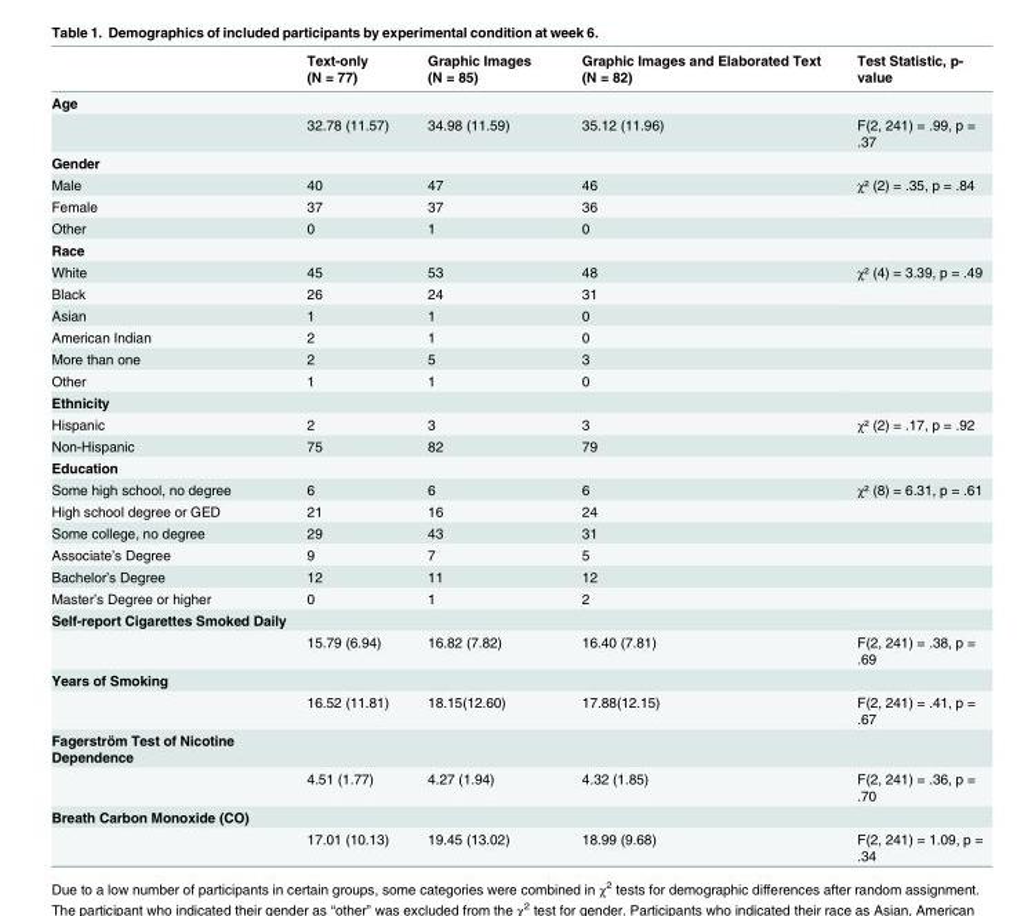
<table><thead><tr><td></td><td>Text-only (N = 77)</td><td>Graphic Images (N = 85)</td><td>Graphic Images and Elaborated Text (N = 82)</td><td>Test Statistic, p- value</td></tr></thead><tbody><tr><td colspan="5">Age</td></tr><tr><td></td><td>32.78 (11.57)</td><td>34.98 (11.59)</td><td>35.12 (11.96)</td><td>F(2, 241) = .99, p = .37</td></tr><tr><td colspan="5">Gender</td></tr><tr><td>Male</td><td>40</td><td>47</td><td>46</td><td>χ² (2) = .35, p = .84</td></tr><tr><td>Female</td><td>37</td><td>37</td><td>36</td><td></td></tr><tr><td>Other</td><td>0</td><td>1</td><td>0</td><td></td></tr><tr><td colspan="5">Race</td></tr><tr><td>White</td><td>45</td><td>53</td><td>48</td><td>χ² (4) = 3.39, p = .49</td></tr><tr><td>Black</td><td>26</td><td>24</td><td>31</td><td></td></tr><tr><td>Asian</td><td>1</td><td>1</td><td>0</td><td></td></tr><tr><td>American Indian</td><td>2</td><td>1</td><td>0</td><td></td></tr><tr><td>More than one</td><td>2</td><td>5</td><td>3</td><td></td></tr><tr><td>Other</td><td>1</td><td>1</td><td>0</td><td></td></tr><tr><td colspan="5">Ethnicity</td></tr><tr><td>Hispanic</td><td>2</td><td>3</td><td>3</td><td>χ² (2) = .17, p = .92</td></tr><tr><td>Non-Hispanic</td><td>75</td><td>82</td><td>79</td><td></td></tr><tr><td colspan="5">Education</td></tr><tr><td>Some high school, no degree</td><td>6</td><td>6</td><td>6</td><td>χ² (8) = 6.31, p = .61</td></tr><tr><td>High school degree or GED</td><td>21</td><td>16</td><td>24</td><td></td></tr><tr><td>Some college, no degree</td><td>29</td><td>43</td><td>31</td><td></td></tr><tr><td>Associate’s Degree</td><td>9</td><td>7</td><td>5</td><td></td></tr><tr><td>Bachelor’s Degree</td><td>12</td><td>11</td><td>12</td><td></td></tr><tr><td>Master’s Degree or higher</td><td>0</td><td>1</td><td>2</td><td></td></tr><tr><td colspan="5">Self-report Cigarettes Smoked Daily</td></tr><tr><td></td><td>15.79 (6.94)</td><td>16.82 (7.82)</td><td>16.40 (7.81)</td><td>F(2, 241) = .38, p = .69</td></tr><tr><td colspan="5">Years of Smoking</td></tr><tr><td></td><td>16.52 (11.81)</td><td>18.15(12.60)</td><td>17.88(12.15)</td><td>F(2, 241) = .41, p = .67</td></tr><tr><td colspan="5">Fagerström Test of Nicotine Dependence</td></tr><tr><td></td><td>4.51 (1.77)</td><td>4.27 (1.94)</td><td>4.32 (1.85)</td><td>F(2, 241) = .36, p = .70</td></tr><tr><td colspan="5">Breath Carbon Monoxide (CO)</td></tr><tr><td></td><td>17.01 (10.13)</td><td>19.45 (13.02)</td><td>18.99 (9.68)</td><td>F(2, 241) = 1.09, p = .34</td></tr></tbody></table>